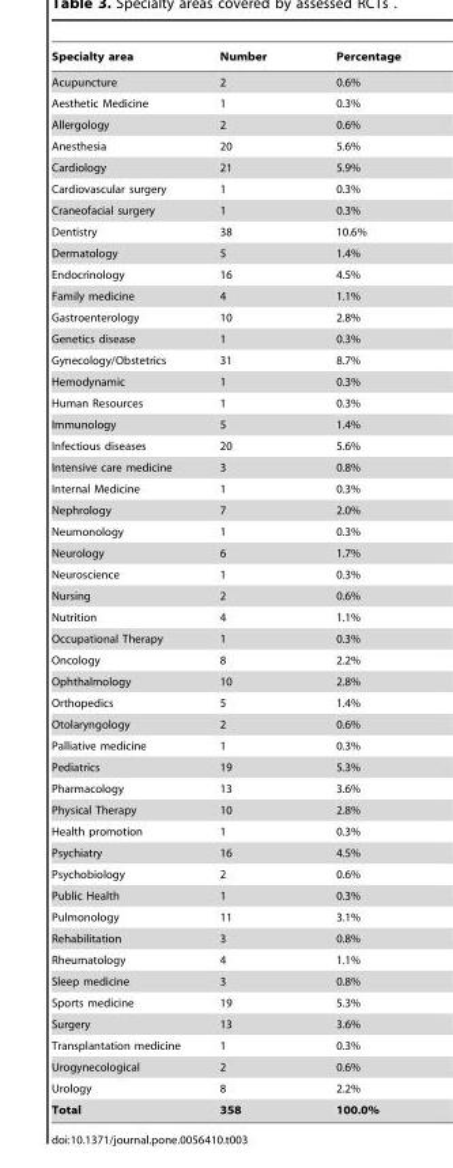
<table><thead><tr><td>Specialty area</td><td>Number</td><td>Percentage</td></tr></thead><tbody><tr><td>Acupuncture</td><td>2</td><td>0.6%</td></tr><tr><td>Aesthetic Medicine</td><td>1</td><td>0.3%</td></tr><tr><td>Allergology</td><td>2</td><td>0.6%</td></tr><tr><td>Anesthesia</td><td>20</td><td>5.6%</td></tr><tr><td>Cardiology</td><td>21</td><td>5.9%</td></tr><tr><td>Cardiovascular surgery</td><td>1</td><td>0.3%</td></tr><tr><td>Craneofacial surgery</td><td>1</td><td>0.3%</td></tr><tr><td>Dentistry</td><td>38</td><td>10.6%</td></tr><tr><td>Dermatology</td><td>5</td><td>1.4%</td></tr><tr><td>Endocrinology</td><td>16</td><td>4.5%</td></tr><tr><td>Family medicine</td><td>4</td><td>1.1%</td></tr><tr><td>Gastroenterology</td><td>10</td><td>2.8%</td></tr><tr><td>Genetics disease</td><td>1</td><td>0.3%</td></tr><tr><td>Gynecology/Obstetrics</td><td>31</td><td>8.7%</td></tr><tr><td>Hemodynamic</td><td>1</td><td>0.3%</td></tr><tr><td>Human Resources</td><td>1</td><td>0.3%</td></tr><tr><td>Immunology</td><td>5</td><td>1.4%</td></tr><tr><td>Infectious diseases</td><td>20</td><td>5.6%</td></tr><tr><td>Intensive care medicine</td><td>3</td><td>0.8%</td></tr><tr><td>Internal Medicine</td><td>1</td><td>0.3%</td></tr><tr><td>Nephrology</td><td>7</td><td>2.0%</td></tr><tr><td>Neumonology</td><td>1</td><td>0.3%</td></tr><tr><td>Neurology</td><td>6</td><td>1.7%</td></tr><tr><td>Neuroscience</td><td>1</td><td>0.3%</td></tr><tr><td>Nursing</td><td>2</td><td>0.6%</td></tr><tr><td>Nutrition</td><td>4</td><td>1.1%</td></tr><tr><td>Occupational Therapy</td><td>1</td><td>0.3%</td></tr><tr><td>Oncology</td><td>8</td><td>2.2%</td></tr><tr><td>Ophthalmology</td><td>10</td><td>2.8%</td></tr><tr><td>Orthopedics</td><td>5</td><td>1.4%</td></tr><tr><td>Otolaryngology</td><td>2</td><td>0.6%</td></tr><tr><td>Palliative medicine</td><td>1</td><td>0.3%</td></tr><tr><td>Pediatrics</td><td>19</td><td>5.3%</td></tr><tr><td>Pharmacology</td><td>13</td><td>3.6%</td></tr><tr><td>Physical Therapy</td><td>10</td><td>2.8%</td></tr><tr><td>Health promotion</td><td>1</td><td>0.3%</td></tr><tr><td>Psychiatry</td><td>16</td><td>4.5%</td></tr><tr><td>Psychobiology</td><td>2</td><td>0.6%</td></tr><tr><td>Public Health</td><td>1</td><td>0.3%</td></tr><tr><td>Pulmonology</td><td>11</td><td>3.1%</td></tr><tr><td>Rehabilitation</td><td>3</td><td>0.8%</td></tr><tr><td>Rheumatology</td><td>4</td><td>1.1%</td></tr><tr><td>Sleep medicine</td><td>3</td><td>0.8%</td></tr><tr><td>Sports medicine</td><td>19</td><td>5.3%</td></tr><tr><td>Surgery</td><td>13</td><td>3.6%</td></tr><tr><td>Transplantation medicine</td><td>1</td><td>0.3%</td></tr><tr><td>Urogynecological</td><td>2</td><td>0.6%</td></tr><tr><td>Urology</td><td>8</td><td>2.2%</td></tr><tr><td>Total</td><td>358</td><td>100.0%</td></tr></tbody></table>